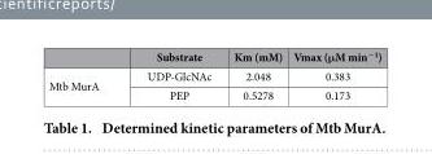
<table><thead><tr><td></td><td>Substrate</td><td>Km (mM)</td><td>Vmax (μM min<sup>−1</sup>)</td></tr></thead><tbody><tr><td rowspan="2">Mtb MurA</td><td>UDP-GlcNAc</td><td>2.048</td><td>0.383</td></tr><tr><td>PEP</td><td>0.5278</td><td>0.173</td></tr></tbody></table>